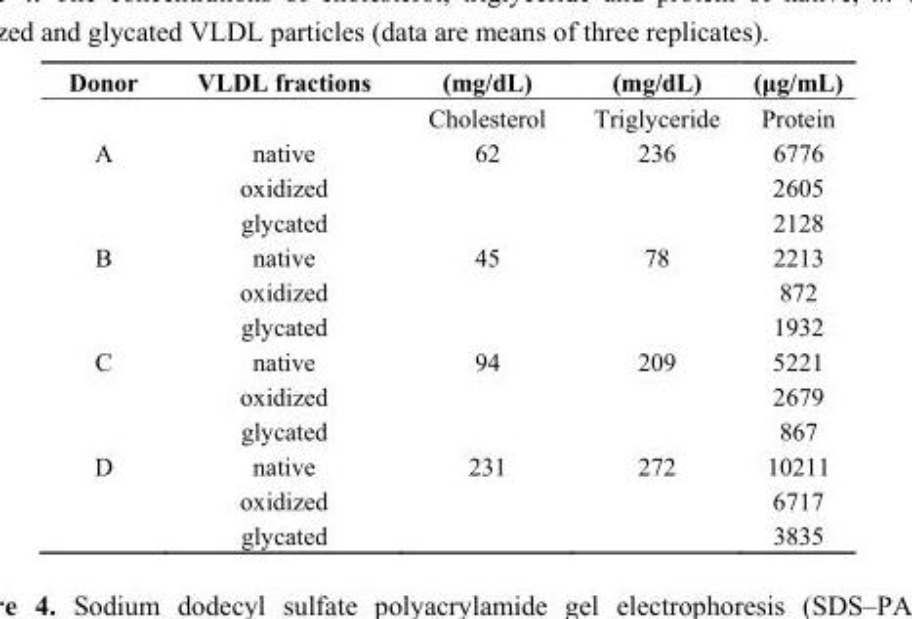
<table><thead><tr><td rowspan="2">Donor</td><td rowspan="2">VLDL fractions</td><td rowspan="2">(mg/dL) Cholesterol</td><td rowspan="2">(mg/dL) Triglyceride</td><td rowspan="2">(μg/mL) Protein</td></tr><tr></tr></thead><tbody><tr><td rowspan="3">A</td><td>native</td><td>62</td><td>236</td><td>6776</td></tr><tr><td>oxidized</td><td></td><td></td><td>2605</td></tr><tr><td>glycated</td><td></td><td></td><td>2128</td></tr><tr><td rowspan="3">B</td><td>native</td><td>45</td><td>78</td><td>2213</td></tr><tr><td>oxidized</td><td></td><td></td><td>872</td></tr><tr><td>glycated</td><td></td><td></td><td>1932</td></tr><tr><td rowspan="3">C</td><td>native</td><td>94</td><td>209</td><td>5221</td></tr><tr><td>oxidized</td><td></td><td></td><td>2679</td></tr><tr><td>glycated</td><td></td><td></td><td>867</td></tr><tr><td rowspan="3">D</td><td>native</td><td>231</td><td>272</td><td>10211</td></tr><tr><td>oxidized</td><td></td><td></td><td>6717</td></tr><tr><td>glycated</td><td></td><td></td><td>3835</td></tr></tbody></table>